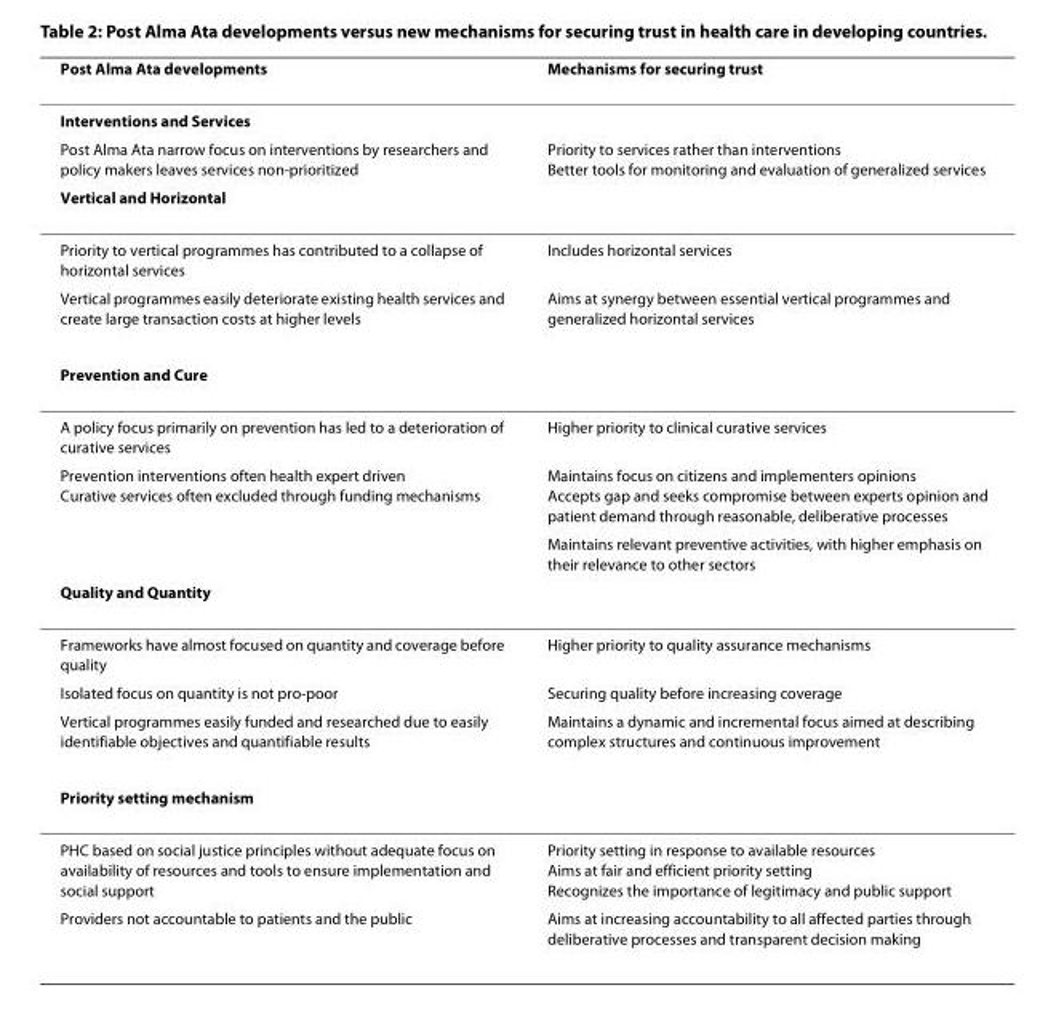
<table><thead><tr><td>Post Alma Ata developments</td><td>Mechanisms for securing trust</td></tr></thead><tbody><tr><td colspan="2">Interventions and Services</td></tr><tr><td>Post Alma Ata narrow focus on interventions by researchers and policy makers leaves services non-prioritized</td><td>Priority to services rather than interventions Better tools for monitoring and evaluation of generalized services</td></tr><tr><td colspan="2">Vertical and Horizontal</td></tr><tr><td>Priority to vertical programmes has contributed to a collapse of horizontal services</td><td>Includes horizontal services</td></tr><tr><td>Vertical programmes easily deteriorate existing health services and create large transaction costs at higher levels</td><td>Aims at synergy between essential vertical programmes and generalized horizontal services</td></tr><tr><td colspan="2">Prevention and Cure</td></tr><tr><td>A policy focus primarily on prevention has led to a deterioration of curative services</td><td>Higher priority to clinical curative services</td></tr><tr><td rowspan="2">Prevention interventions often health expert driven Curative services often excluded through funding mechanisms</td><td>Maintains focus on citizens and implementers opinions Accepts gap and seeks compromise between experts opinion and patient demand through reasonable, deliberative processes</td></tr><tr><td>Maintains relevant preventive activities, with higher emphasis on their relevance to other sectors</td></tr><tr><td colspan="2">Quality and Quantity</td></tr><tr><td>Frameworks have almost focused on quantity and coverage before quality</td><td>Higher priority to quality assurance mechanisms</td></tr><tr><td>Isolated focus on quantity is not pro-poor</td><td>Securing quality before increasing coverage</td></tr><tr><td>Vertical programmes easily funded and researched due to easily identifiable objectives and quantifiable results</td><td>Maintains a dynamic and incremental focus aimed at describing complex structures and continuous improvement</td></tr><tr><td colspan="2">Priority setting mechanism</td></tr><tr><td>PHC based on social justice principles without adequate focus on availability of resources and tools to ensure implementation and social support</td><td>Priority setting in response to available resources Aims at fair and efficient priority setting Recognizes the importance of legitimacy and public support</td></tr><tr><td>Providers not accountable to patients and the public</td><td>Aims at increasing accountability to all affected parties through deliberative processes and transparent decision making</td></tr></tbody></table>